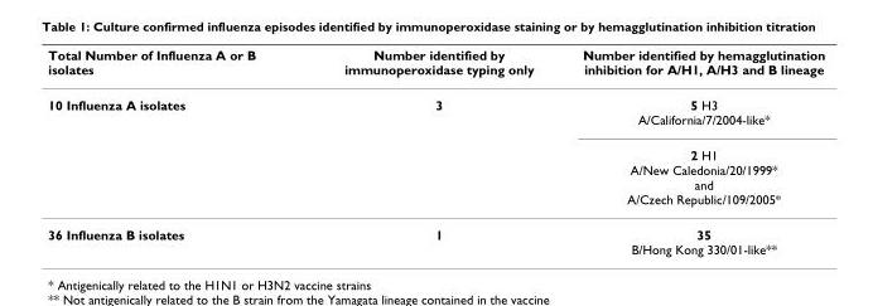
<table><thead><tr><td>Total Number of Influenza A or B isolates</td><td>Number identified by immunoperoxidase typing only</td><td>Number identified by hemagglutination inhibition for A/H1, A/H3 and B lineage</td></tr></thead><tbody><tr><td rowspan="2">10 Influenza A isolates</td><td>3</td><td>5 H3 A/California/7/2004-like*</td></tr><tr><td></td><td>2 H1 A/New Caledonia/20/1999* and A/Czech Republic/109/2005*</td></tr><tr><td>36 Influenza B isolates</td><td>1</td><td>35 B/Hong Kong 330/01-like**</td></tr></tbody></table>